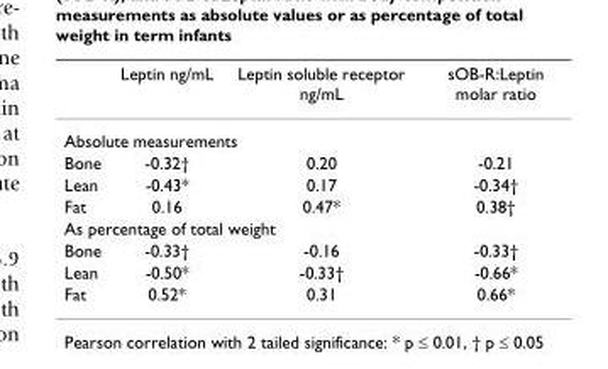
<table><thead><tr><td></td><td>Leptin ng/mL</td><td>Leptin soluble receptor ng/mL</td><td>sOB-R:Leptin molar ratio</td></tr></thead><tbody><tr><td colspan="4">Absolute measurements</td></tr><tr><td>Bone</td><td>-0.32†</td><td>0.20</td><td>-0.21</td></tr><tr><td>Lean</td><td>-0.43*</td><td>0.17</td><td>-0.34†</td></tr><tr><td>Fat</td><td>0.16</td><td>0.47*</td><td>0.38†</td></tr><tr><td colspan="4">As percentage of total weight</td></tr><tr><td>Bone</td><td>-0.33†</td><td>-0.16</td><td>-0.33†</td></tr><tr><td>Lean</td><td>-0.50*</td><td>-0.33†</td><td>-0.66*</td></tr><tr><td>Fat</td><td>0.52*</td><td>0.31</td><td>0.66*</td></tr></tbody></table>